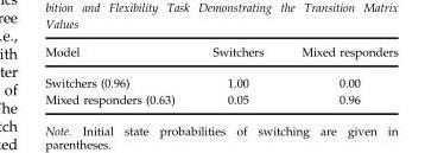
<table><thead><tr><td>Model</td><td>Switchers</td><td>Mixed responders</td></tr></thead><tbody><tr><td>Switchers (0.96)</td><td>1.00</td><td>0.00</td></tr><tr><td>Mixed responders (0.63)</td><td>0.05</td><td>0.96</td></tr></tbody></table>